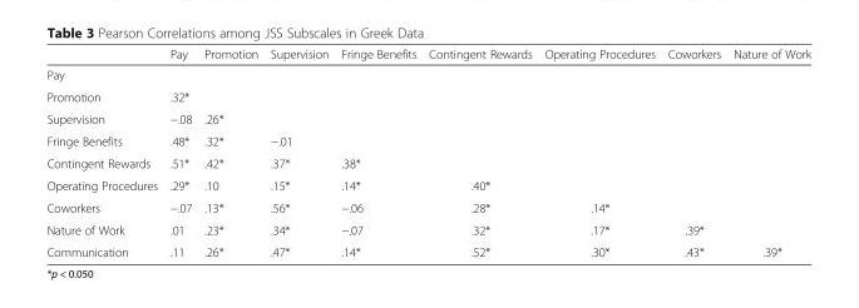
<table><thead><tr><td></td><td>Pay</td><td>Promotion</td><td>Supervision</td><td>Fringe Benefits</td><td>Contingent Rewards</td><td>Operating Procedures</td><td>Coworkers</td><td>Nature of Work</td></tr></thead><tbody><tr><td colspan="9">Pay</td></tr><tr><td>Promotion</td><td>.32*</td><td></td><td></td><td></td><td></td><td></td><td></td><td></td></tr><tr><td>Supervision</td><td>−.08</td><td>.26*</td><td></td><td></td><td></td><td></td><td></td><td></td></tr><tr><td>Fringe Benefits</td><td>.48*</td><td>.32*</td><td>−.01</td><td></td><td></td><td></td><td></td><td></td></tr><tr><td>Contingent Rewards</td><td>.51*</td><td>.42*</td><td>.37*</td><td>.38*</td><td></td><td></td><td></td><td></td></tr><tr><td>Operating Procedures</td><td>.29*</td><td>.10</td><td>.15*</td><td>.14*</td><td>.40*</td><td></td><td></td><td></td></tr><tr><td>Coworkers</td><td>−.07</td><td>.13*</td><td>.56*</td><td>−.06</td><td>.28*</td><td>.14*</td><td></td><td></td></tr><tr><td>Nature of Work</td><td>.01</td><td>.23*</td><td>.34*</td><td>−.07</td><td>.32*</td><td>.17*</td><td>.39*</td><td></td></tr><tr><td>Communication</td><td>.11</td><td>.26*</td><td>.47*</td><td>.14*</td><td>.52*</td><td>.30*</td><td>.43*</td><td>.39*</td></tr></tbody></table>